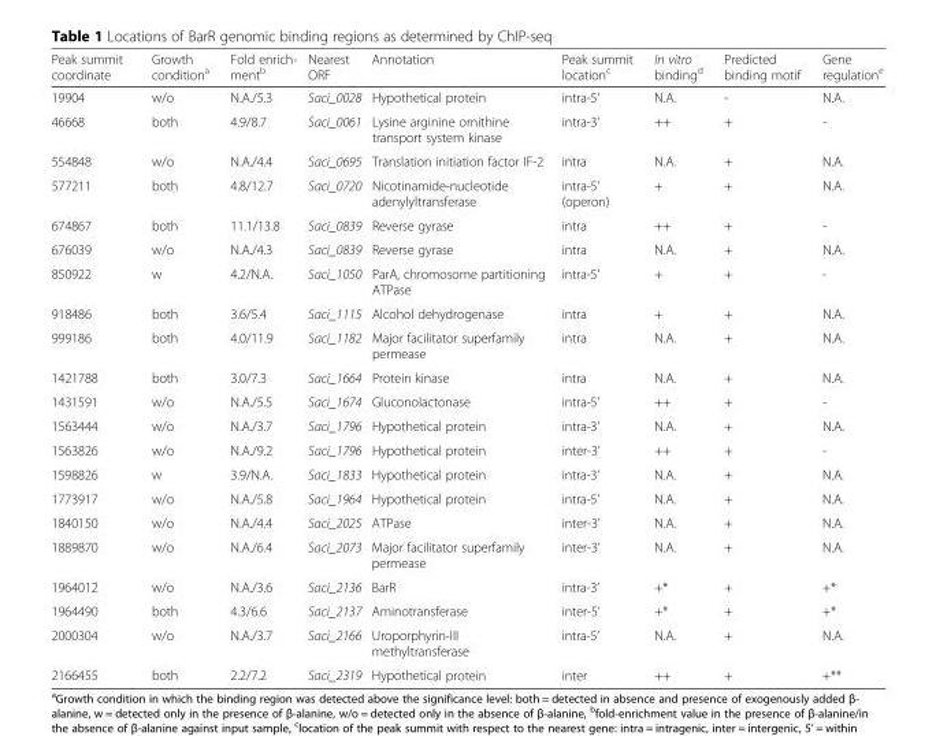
<table><thead><tr><td>Peak summit coordinate</td><td>Growth condition<sup>a</sup></td><td>Fold enrich- ment<sup>b</sup></td><td>Nearest ORF</td><td>Annotation</td><td>Peak summit location<sup>c</sup></td><td>In vitro binding<sup>d</sup></td><td>Predicted binding motif</td><td>Gene regulation<sup>e</sup></td></tr></thead><tbody><tr><td>19904</td><td>w/o</td><td>N.A./5.3</td><td>Saci_0028</td><td>Hypothetical protein</td><td>intra-5’</td><td>N.A.</td><td>-</td><td>N.A.</td></tr><tr><td>46668</td><td>both</td><td>4.9/8.7</td><td>Saci_0061</td><td>Lysine arginine ornithine transport system kinase</td><td>intra-3’</td><td>++</td><td>+</td><td>-</td></tr><tr><td>554848</td><td>w/o</td><td>N.A./4.4</td><td>Saci_0695</td><td>Translation initiation factor IF-2</td><td>intra</td><td>N.A.</td><td>+</td><td>N.A.</td></tr><tr><td>577211</td><td>both</td><td>4.8/12.7</td><td>Saci_0720</td><td>Nicotinamide-nucleotide adenylyltransferase</td><td>intra-5’ (operon)</td><td>+</td><td>+</td><td>N.A.</td></tr><tr><td>674867</td><td>both</td><td>11.1/13.8</td><td>Saci_0839</td><td>Reverse gyrase</td><td>intra</td><td>++</td><td>+</td><td>-</td></tr><tr><td>676039</td><td>w/o</td><td>N.A./4.3</td><td>Saci_0839</td><td>Reverse gyrase</td><td>intra</td><td>N.A.</td><td>+</td><td>N.A.</td></tr><tr><td>850922</td><td>w</td><td>4.2/N.A.</td><td>Saci_1050</td><td>ParA, chromosome partitioning ATPase</td><td>intra-5’</td><td>+</td><td>+</td><td>-</td></tr><tr><td>918486</td><td>both</td><td>3.6/5.4</td><td>Saci_1115</td><td>Alcohol dehydrogenase</td><td>intra</td><td>+</td><td>+</td><td>N.A.</td></tr><tr><td>999186</td><td>both</td><td>4.0/11.9</td><td>Saci_1182</td><td>Major facilitator superfamily permease</td><td>intra</td><td>N.A.</td><td>+</td><td>N.A.</td></tr><tr><td>1421788</td><td>both</td><td>3.0/7.3</td><td>Saci_1664</td><td>Protein kinase</td><td>intra</td><td>N.A.</td><td>+</td><td>N.A.</td></tr><tr><td>1431591</td><td>w/o</td><td>N.A./5.5</td><td>Saci_1674</td><td>Gluconolactonase</td><td>intra-5’</td><td>++</td><td>+</td><td>-</td></tr><tr><td>1563444</td><td>w/o</td><td>N.A./3.7</td><td>Saci_1796</td><td>Hypothetical protein</td><td>intra-3’</td><td>N.A.</td><td>+</td><td>N.A.</td></tr><tr><td>1563826</td><td>w/o</td><td>N.A./9.2</td><td>Saci_1796</td><td>Hypothetical protein</td><td>inter-3’</td><td>++</td><td>+</td><td>-</td></tr><tr><td>1598826</td><td>w</td><td>3.9/N.A.</td><td>Saci_1833</td><td>Hypothetical protein</td><td>intra-3’</td><td>N.A.</td><td>+</td><td>N.A.</td></tr><tr><td>1773917</td><td>w/o</td><td>N.A./5.8</td><td>Saci_1964</td><td>Hypothetical protein</td><td>intra-5’</td><td>N.A.</td><td>+</td><td>N.A.</td></tr><tr><td>1840150</td><td>w/o</td><td>N.A./4.4</td><td>Saci_2025</td><td>ATPase</td><td>inter-3’</td><td>N.A.</td><td>+</td><td>N.A.</td></tr><tr><td>1889870</td><td>w/o</td><td>N.A./6.4</td><td>Saci_2073</td><td>Major facilitator superfamily permease</td><td>inter-3’</td><td>N.A.</td><td>+</td><td>N.A.</td></tr><tr><td>1964012</td><td>w/o</td><td>N.A./3.6</td><td>Saci_2136</td><td>BarR</td><td>intra-3’</td><td>+*</td><td>+</td><td>+*</td></tr><tr><td>1964490</td><td>both</td><td>4.3/6.6</td><td>Saci_2137</td><td>Aminotransferase</td><td>inter-5’</td><td>+*</td><td>+</td><td>+*</td></tr><tr><td>2000304</td><td>w/o</td><td>N.A./3.7</td><td>Saci_2166</td><td>Uroporphyrin-III methyltransferase</td><td>intra-5’</td><td>N.A.</td><td>+</td><td>N.A.</td></tr><tr><td>2166455</td><td>both</td><td>2.2/7.2</td><td>Saci_2319</td><td>Hypothetical protein</td><td>inter</td><td>++</td><td>+</td><td>+**</td></tr></tbody></table>